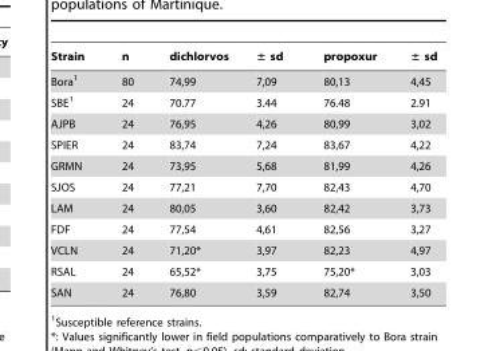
<table><thead><tr><td>Strain</td><td>n</td><td>dichlorvos</td><td>± sd</td><td>propoxur</td><td>± sd</td></tr></thead><tbody><tr><td>Bora<sup>1</sup></td><td>80</td><td>74,99</td><td>7,09</td><td>80,13</td><td>4,45</td></tr><tr><td>SBE<sup>1</sup></td><td>24</td><td>70.77</td><td>3.44</td><td>76.48</td><td>2.91</td></tr><tr><td>AJPB</td><td>24</td><td>76,95</td><td>4,26</td><td>80,99</td><td>3,02</td></tr><tr><td>SPIER</td><td>24</td><td>83,74</td><td>7,24</td><td>83,67</td><td>4,22</td></tr><tr><td>GRMN</td><td>24</td><td>73,95</td><td>5,68</td><td>81,99</td><td>4,26</td></tr><tr><td>SJOS</td><td>24</td><td>77,21</td><td>7,70</td><td>82,43</td><td>4,70</td></tr><tr><td>LAM</td><td>24</td><td>80,05</td><td>3,60</td><td>82,42</td><td>3,73</td></tr><tr><td>FDF</td><td>24</td><td>77,54</td><td>4,61</td><td>82,56</td><td>3,27</td></tr><tr><td>VCLN</td><td>24</td><td>71,20*</td><td>3,97</td><td>82,23</td><td>4,97</td></tr><tr><td>RSAL</td><td>24</td><td>65,52*</td><td>3,75</td><td>75,20*</td><td>3,03</td></tr><tr><td>SAN</td><td>24</td><td>76,80</td><td>3,59</td><td>82,74</td><td>3,50</td></tr></tbody></table>